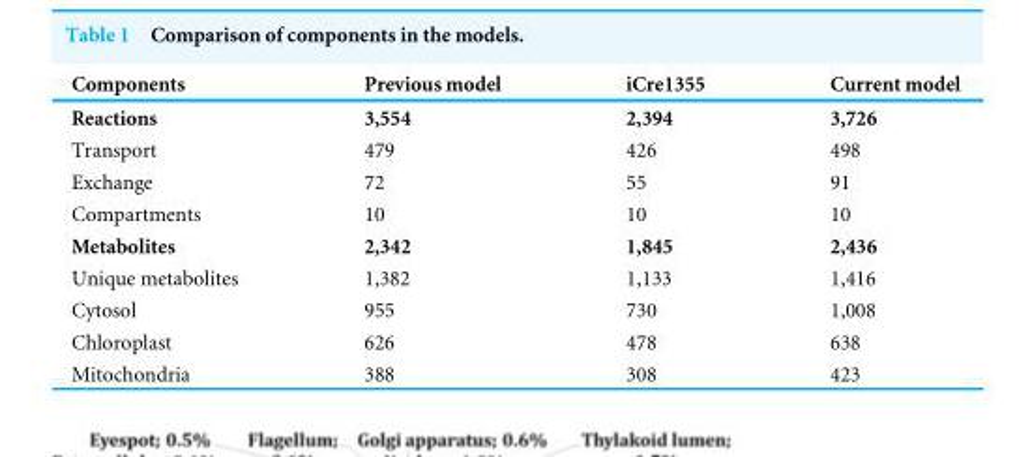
<table><thead><tr><td>Components</td><td>Previous model</td><td>iCre1355</td><td>Current model</td></tr></thead><tbody><tr><td>Reactions</td><td>3,554</td><td>2,394</td><td>3,726</td></tr><tr><td>Transport</td><td>479</td><td>426</td><td>498</td></tr><tr><td>Exchange</td><td>72</td><td>55</td><td>91</td></tr><tr><td>Compartments</td><td>10</td><td>10</td><td>10</td></tr><tr><td>Metabolites</td><td>2,342</td><td>1,845</td><td>2,436</td></tr><tr><td>Unique metabolites</td><td>1,382</td><td>1,133</td><td>1,416</td></tr><tr><td>Cytosol</td><td>955</td><td>730</td><td>1,008</td></tr><tr><td>Chloroplast</td><td>626</td><td>478</td><td>638</td></tr><tr><td>Mitochondria</td><td>388</td><td>308</td><td>423</td></tr></tbody></table>